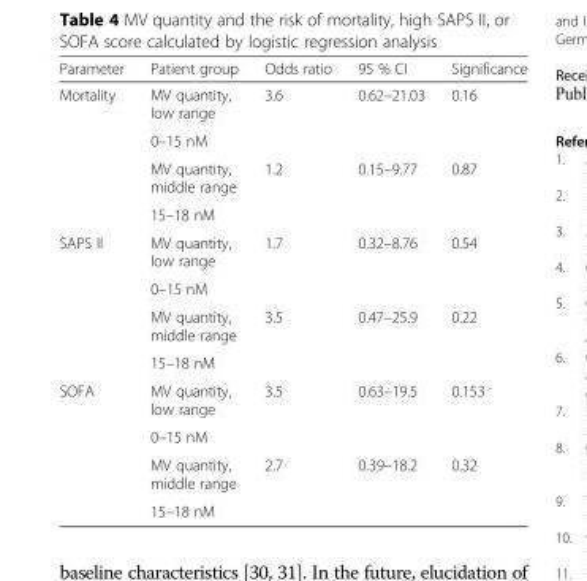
<table><thead><tr><td>Parameter</td><td>Patient group</td><td>Odds ratio</td><td>95 % CI</td><td>Significance</td></tr></thead><tbody><tr><td rowspan="4">Mortality</td><td>MV quantity, low range</td><td rowspan="2">3.6</td><td rowspan="2">0.62–21.03</td><td rowspan="2">0.16</td></tr><tr><td>0–15 nM</td></tr><tr><td>MV quantity, middle range</td><td rowspan="2">1.2</td><td rowspan="2">0.15–9.77</td><td rowspan="2">0.87</td></tr><tr><td>15–18 nM</td></tr><tr><td rowspan="4">SAPS II</td><td>MV quantity, low range</td><td rowspan="2">1.7</td><td rowspan="2">0.32–8.76</td><td rowspan="2">0.54</td></tr><tr><td>0–15 nM</td></tr><tr><td>MV quantity, middle range</td><td rowspan="2">3.5</td><td rowspan="2">0.47–25.9</td><td rowspan="2">0.22</td></tr><tr><td>15–18 nM</td></tr><tr><td rowspan="4">SOFA</td><td>MV quantity, low range</td><td rowspan="2">3.5</td><td rowspan="2">0.63–19.5</td><td rowspan="2">0.153</td></tr><tr><td>0–15 nM</td></tr><tr><td>MV quantity, middle range</td><td rowspan="2">2.7</td><td rowspan="2">0.39–18.2</td><td rowspan="2">0.32</td></tr><tr><td>15–18 nM</td></tr></tbody></table>